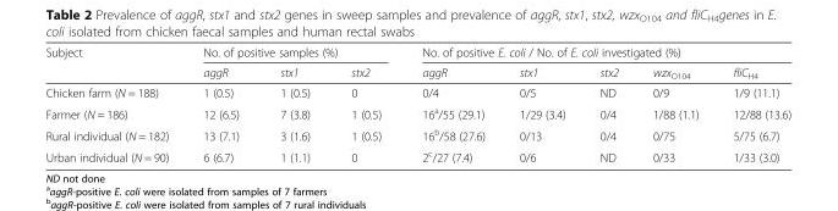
<table><thead><tr><td rowspan="2">Subject</td><td colspan="3">No. of positive samples (%)</td><td colspan="5">No. of positive E. coli / No. of E. coli investigated (%)</td></tr><tr><td>aggR</td><td>stx1</td><td>stx2</td><td>aggR</td><td>stx1</td><td>stx2</td><td>wzx<sub>O104</sub></td><td>fliC<sub>H4</sub></td></tr></thead><tbody><tr><td>Chicken farm (N = 188)</td><td>1 (0.5)</td><td>1 (0.5)</td><td>0</td><td>0/4</td><td>0/5</td><td>ND</td><td>0/9</td><td>1/9 (11.1)</td></tr><tr><td>Farmer (N = 186)</td><td>12 (6.5)</td><td>7 (3.8)</td><td>1 (0.5)</td><td>16<sup>a</sup>/55 (29.1)</td><td>1/29 (3.4)</td><td>0/4</td><td>1/88 (1.1)</td><td>12/88 (13.6)</td></tr><tr><td>Rural individual (N = 182)</td><td>13 (7.1)</td><td>3 (1.6)</td><td>1 (0.5)</td><td>16<sup>b</sup>/58 (27.6)</td><td>0/13</td><td>0/4</td><td>0/75</td><td>5/75 (6.7)</td></tr><tr><td>Urban individual (N = 90)</td><td>6 (6.7)</td><td>1 (1.1)</td><td>0</td><td>2<sup>c</sup>/27 (7.4)</td><td>0/6</td><td>ND</td><td>0/33</td><td>1/33 (3.0)</td></tr></tbody></table>